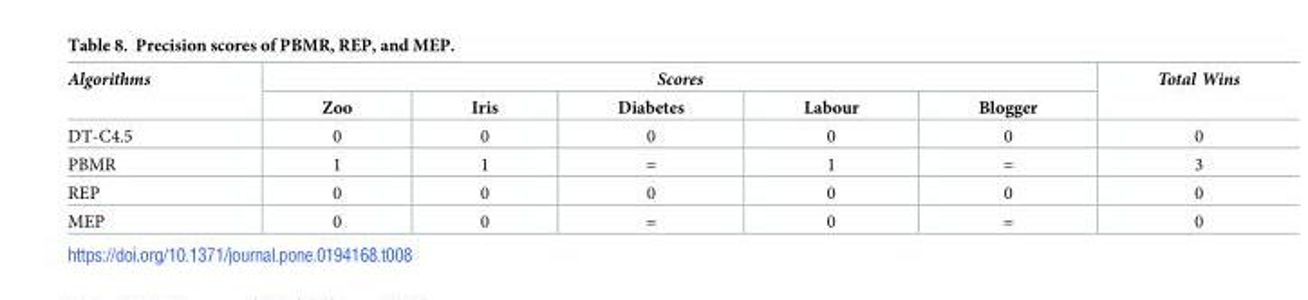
<table><thead><tr><td rowspan="2">Algorithms</td><td colspan="5">Scores</td><td rowspan="2">Total Wins</td></tr><tr><td>Zoo</td><td>Iris</td><td>Diabetes</td><td>Labour</td><td>Blogger</td></tr></thead><tbody><tr><td>DT-C4.5</td><td>0</td><td>0</td><td>0</td><td>0</td><td>0</td><td>0</td></tr><tr><td>PBMR</td><td>1</td><td>1</td><td>=</td><td>1</td><td>=</td><td>3</td></tr><tr><td>REP</td><td>0</td><td>0</td><td>0</td><td>0</td><td>0</td><td>0</td></tr><tr><td>MEP</td><td>0</td><td>0</td><td>=</td><td>0</td><td>=</td><td>0</td></tr></tbody></table>